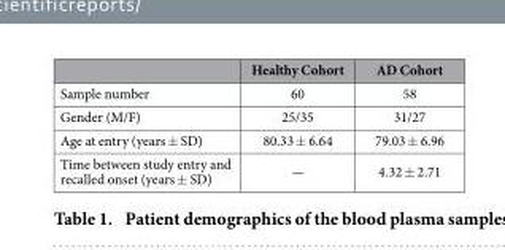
<table><thead><tr><td></td><td>Healthy Cohort</td><td>AD Cohort</td></tr></thead><tbody><tr><td>Sample number</td><td>60</td><td>58</td></tr><tr><td>Gender (M/F)</td><td>25/35</td><td>31/27</td></tr><tr><td>Age at entry (years ± SD)</td><td>80.33 ± 6.64</td><td>79.03 ± 6.96</td></tr><tr><td>Time between study entry and recalled onset (years ± SD)</td><td>—</td><td>4.32 ± 2.71</td></tr></tbody></table>